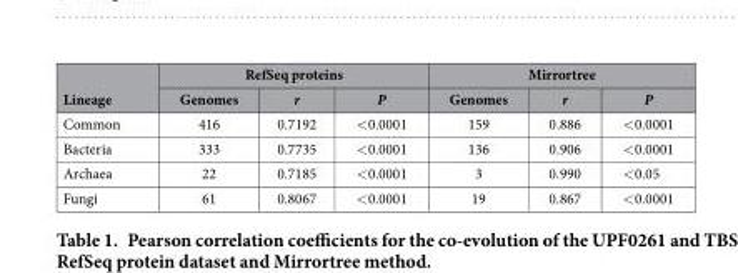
<table><thead><tr><td rowspan="2">Lineage</td><td colspan="3">RefSeq proteins</td><td colspan="3">Mirrortree</td></tr><tr><td>Genomes</td><td>r</td><td>P</td><td>Genomes</td><td>r</td><td>P</td></tr></thead><tbody><tr><td>Common</td><td>416</td><td>0.7192</td><td>&lt; 0.0001</td><td>159</td><td>0.886</td><td>&lt; 0.0001</td></tr><tr><td>Bacteria</td><td>333</td><td>0.7735</td><td>&lt; 0.0001</td><td>136</td><td>0.906</td><td>&lt; 0.0001</td></tr><tr><td>Archaea</td><td>22</td><td>0.7185</td><td>&lt; 0.0001</td><td>3</td><td>0.990</td><td>&lt; 0.05</td></tr><tr><td>Fungi</td><td>61</td><td>0.8067</td><td>&lt; 0.0001</td><td>19</td><td>0.867</td><td>&lt; 0.0001</td></tr></tbody></table>